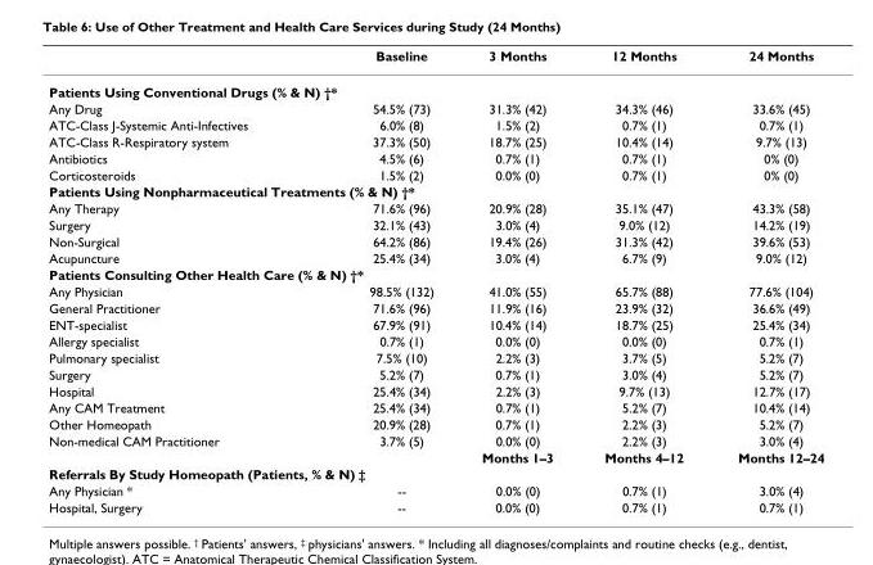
<table><thead><tr><td></td><td>Baseline</td><td>3 Months</td><td>12 Months</td><td>24 Months</td></tr></thead><tbody><tr><td colspan="5">Patients Using Conventional Drugs (% &amp; N) †*</td></tr><tr><td>Any Drug</td><td>54.5% (73)</td><td>31.3% (42)</td><td>34.3% (46)</td><td>33.6% (45)</td></tr><tr><td>ATC-Class J-Systemic Anti-Infectives</td><td>6.0% (8)</td><td>1.5% (2)</td><td>0.7% (1)</td><td>0.7% (1)</td></tr><tr><td>ATC-Class R-Respiratory system</td><td>37.3% (50)</td><td>18.7% (25)</td><td>10.4% (14)</td><td>9.7% (13)</td></tr><tr><td>Antibiotics</td><td>4.5% (6)</td><td>0.7% (1)</td><td>0.7% (1)</td><td>0% (0)</td></tr><tr><td>Corticosteroids</td><td>1.5% (2)</td><td>0.0% (0)</td><td>0.7% (1)</td><td>0% (0)</td></tr><tr><td colspan="5">Patients Using Nonpharmaceutical Treatments (% &amp; N) †*</td></tr><tr><td>Any Therapy</td><td>71.6% (96)</td><td>20.9% (28)</td><td>35.1% (47)</td><td>43.3% (58)</td></tr><tr><td>Surgery</td><td>32.1% (43)</td><td>3.0% (4)</td><td>9.0% (12)</td><td>14.2% (19)</td></tr><tr><td>Non-Surgical</td><td>64.2% (86)</td><td>19.4% (26)</td><td>31.3% (42)</td><td>39.6% (53)</td></tr><tr><td>Acupuncture</td><td>25.4% (34)</td><td>3.0% (4)</td><td>6.7% (9)</td><td>9.0% (12)</td></tr><tr><td colspan="5">Patients Consulting Other Health Care (% &amp; N) †*</td></tr><tr><td>Any Physician</td><td>98.5% (132)</td><td>41.0% (55)</td><td>65.7% (88)</td><td>77.6% (104)</td></tr><tr><td>General Practitioner</td><td>71.6% (96)</td><td>11.9% (16)</td><td>23.9% (32)</td><td>36.6% (49)</td></tr><tr><td>ENT-specialist</td><td>67.9% (91)</td><td>10.4% (14)</td><td>18.7% (25)</td><td>25.4% (34)</td></tr><tr><td>Allergy specialist</td><td>0.7% (1)</td><td>0.0% (0)</td><td>0.0% (0)</td><td>0.7% (1)</td></tr><tr><td>Pulmonary specialist</td><td>7.5% (10)</td><td>2.2% (3)</td><td>3.7% (5)</td><td>5.2% (7)</td></tr><tr><td>Surgery</td><td>5.2% (7)</td><td>0.7% (1)</td><td>3.0% (4)</td><td>5.2% (7)</td></tr><tr><td>Hospital</td><td>25.4% (34)</td><td>2.2% (3)</td><td>9.7% (13)</td><td>12.7% (17)</td></tr><tr><td>Any CAM Treatment</td><td>25.4% (34)</td><td>0.7% (1)</td><td>5.2% (7)</td><td>10.4% (14)</td></tr><tr><td>Other Homeopath</td><td>20.9% (28)</td><td>0.7% (1)</td><td>2.2% (3)</td><td>5.2% (7)</td></tr><tr><td rowspan="2">Non-medical CAM Practitioner</td><td>3.7% (5)</td><td>0.0% (0)</td><td>2.2% (3)</td><td>3.0% (4)</td></tr><tr><td></td><td>Months 1–3</td><td>Months 4–12</td><td>Months 12–24</td></tr><tr><td colspan="5">Referrals By Study Homeopath (Patients, % &amp; N) ‡</td></tr><tr><td>Any Physician *</td><td>--</td><td>0.0% (0)</td><td>0.7% (1)</td><td>3.0% (4)</td></tr><tr><td>Hospital, Surgery</td><td>--</td><td>0.0% (0)</td><td>0.7% (1)</td><td>0.7% (1)</td></tr></tbody></table>